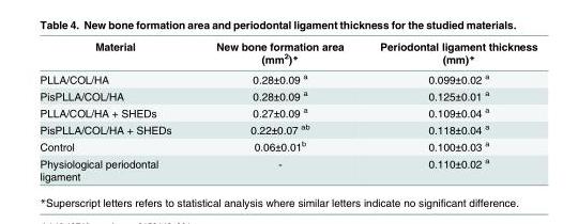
<table><thead><tr><td>Material</td><td>New bone formation area (mm<sup>2</sup>)*</td><td>Periodontal ligament thickness (mm)*</td></tr></thead><tbody><tr><td>PLLA/COL/HA</td><td>0.28±0.09 <sup>a</sup></td><td>0.099±0.02 <sup>a</sup></td></tr><tr><td>PisPLLA/COL/HA</td><td>0.28±0.09 <sup>a</sup></td><td>0.125±0.01 <sup>a</sup></td></tr><tr><td>PLLA/COL/HA + SHEDs</td><td>0.27±0.09 <sup>a</sup></td><td>0.109±0.04 <sup>a</sup></td></tr><tr><td>PisPLLA/COL/HA + SHEDs</td><td>0.22±0.07 <sup>ab</sup></td><td>0.118±0.04 <sup>a</sup></td></tr><tr><td>Control</td><td>0.06±0.01<sup>b</sup></td><td>0.100±0.03 <sup>a</sup></td></tr><tr><td>Physiological periodontal ligament</td><td>-</td><td>0.110±0.02 <sup>a</sup></td></tr></tbody></table>